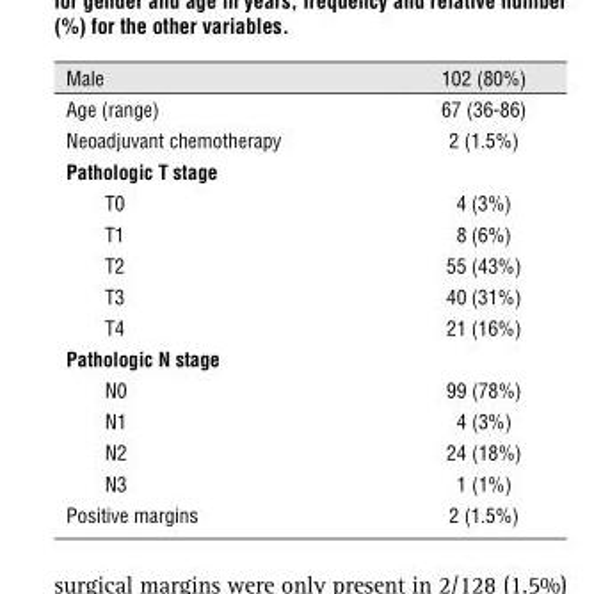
<table><thead><tr><td>Male</td><td>102 (80%)</td></tr></thead><tbody><tr><td>Age (range)</td><td>67 (36-86)</td></tr><tr><td>Neoadjuvant chemotherapy</td><td>2 (1.5%)</td></tr><tr><td colspan="2">pathologic T stage</td></tr><tr><td>T0</td><td>4 (3%)</td></tr><tr><td>T1</td><td>8 (6%)</td></tr><tr><td>T2</td><td>55 (43%)</td></tr><tr><td>T3</td><td>40 (31%)</td></tr><tr><td>T4</td><td>21 (16%)</td></tr><tr><td colspan="2">pathologic n stage</td></tr><tr><td>N0</td><td>99 (78%)</td></tr><tr><td>N1</td><td>4 (3%)</td></tr><tr><td>N2</td><td>24 (18%)</td></tr><tr><td>N3</td><td>1 (1%)</td></tr><tr><td>Positive margins</td><td>2 (1.5%)</td></tr></tbody></table>